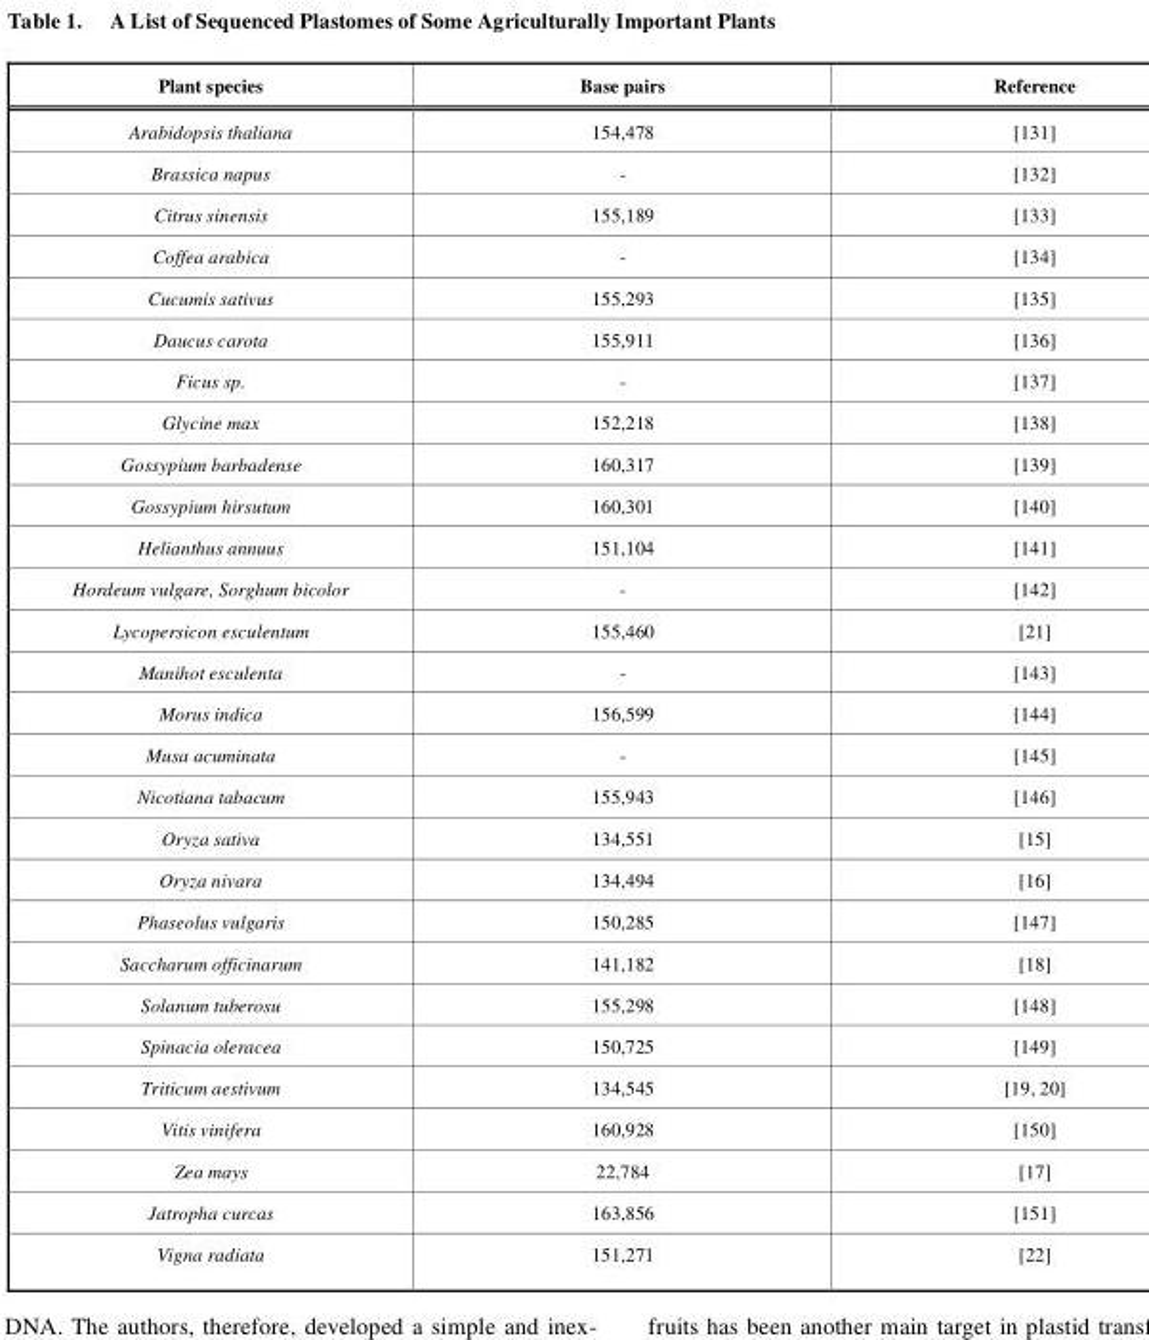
<table><thead><tr><td>Plant species</td><td>Base pairs</td><td>Reference</td></tr></thead><tbody><tr><td>Arabidopsis thaliana</td><td>154,478</td><td>[131]</td></tr><tr><td>Brassica napus</td><td>-</td><td>[132]</td></tr><tr><td>Citrus sinensis</td><td>155,189</td><td>[133]</td></tr><tr><td>Coffea arabica</td><td>-</td><td>[134]</td></tr><tr><td>Cucumis sativus</td><td>155,293</td><td>[135]</td></tr><tr><td>Daucus carota</td><td>155,911</td><td>[136]</td></tr><tr><td>Ficus sp.</td><td>-</td><td>[137]</td></tr><tr><td>Glycine max</td><td>152,218</td><td>[138]</td></tr><tr><td>Gossypium barbadense</td><td>160,317</td><td>[139]</td></tr><tr><td>Gossypium hirsutum</td><td>160,301</td><td>[140]</td></tr><tr><td>Helianthus annuus</td><td>151,104</td><td>[141]</td></tr><tr><td>Hordeum vulgare, Sorghum bicolor</td><td>-</td><td>[142]</td></tr><tr><td>Lycopersicon esculentum</td><td>155,460</td><td>[21]</td></tr><tr><td>Manihot esculenta</td><td>-</td><td>[143]</td></tr><tr><td>Morus indica</td><td>156,599</td><td>[144]</td></tr><tr><td>Musa acuminata</td><td>-</td><td>[145]</td></tr><tr><td>Nicotiana tabacum</td><td>155,943</td><td>[146]</td></tr><tr><td>Oryza sativa</td><td>134,551</td><td>[15]</td></tr><tr><td>Oryza nivara</td><td>134,494</td><td>[16]</td></tr><tr><td>Phaseolus vulgaris</td><td>150,285</td><td>[147]</td></tr><tr><td>Saccharum officinarum</td><td>141,182</td><td>[18]</td></tr><tr><td>Solanum tuberosu</td><td>155,298</td><td>[148]</td></tr><tr><td>Spinacia oleracea</td><td>150,725</td><td>[149]</td></tr><tr><td>Triticum aestivum</td><td>134,545</td><td>[19, 20]</td></tr><tr><td>Vitis vinifera</td><td>160,928</td><td>[150]</td></tr><tr><td>Zea mays</td><td>22,784</td><td>[17]</td></tr><tr><td>Jatropha curcas</td><td>163,856</td><td>[151]</td></tr><tr><td>Vigna radiata</td><td>151,271</td><td>[22]</td></tr></tbody></table>